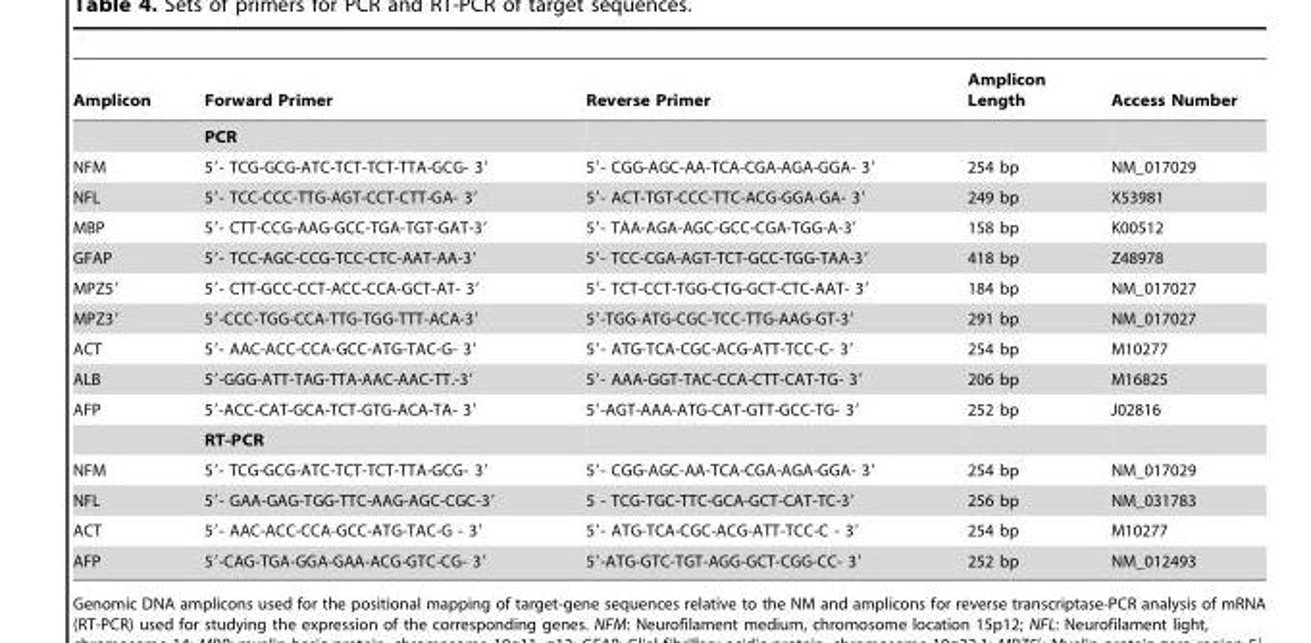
<table><thead><tr><td>Amplicon</td><td>Forward Primer</td><td>Reverse Primer</td><td>Amplicon Length</td><td>Access Number</td></tr></thead><tbody><tr><td></td><td>PCR</td><td></td><td></td><td></td></tr><tr><td>NFM</td><td>5′- TCG-GCG-ATC-TCT-TCT-TTA-GCG- 3′</td><td>5′- CGG-AGC-AA-TCA-CGA-AGA-GGA- 3′</td><td>254 bp</td><td>NM_017029</td></tr><tr><td>NFL</td><td>5′- TCC-CCC-TTG-AGT-CCT-CTT-GA- 3′</td><td>5′- ACT-TGT-CCC-TTC-ACG-GGA-GA- 3′</td><td>249 bp</td><td>X53981</td></tr><tr><td>MBP</td><td>5′- CTT-CCG-AAG-GCC-TGA-TGT-GAT-3′</td><td>5′- TAA-AGA-AGC-GCC-CGA-TGG-A-3′</td><td>158 bp</td><td>K00512</td></tr><tr><td>GFAP</td><td>5′- TCC-AGC-CCG-TCC-CTC-AAT-AA-3′</td><td>5′- TCC-CGA-AGT-TCT-GCC-TGG-TAA-3′</td><td>418 bp</td><td>Z48978</td></tr><tr><td>MPZ5′</td><td>5′- CTT-GCC-CCT-ACC-CCA-GCT-AT- 3′</td><td>5′- TCT-CCT-TGG-CTG-GCT-CTC-AAT- 3′</td><td>184 bp</td><td>NM_017027</td></tr><tr><td>MPZ3′</td><td>5′-CCC-TGG-CCA-TTG-TGG-TTT-ACA-3′</td><td>5′-TGG-ATG-CGC-TCC-TTG-AAG-GT-3′</td><td>291 bp</td><td>NM_017027</td></tr><tr><td>ACT</td><td>5′- AAC-ACC-CCA-GCC-ATG-TAC-G- 3′</td><td>5′- ATG-TCA-CGC-ACG-ATT-TCC-C- 3′</td><td>254 bp</td><td>M10277</td></tr><tr><td>ALB</td><td>5′-GGG-ATT-TAG-TTA-AAC-AAC-TT.-3′</td><td>5′- AAA-GGT-TAC-CCA-CTT-CAT-TG- 3′</td><td>206 bp</td><td>M16825</td></tr><tr><td rowspan="2">AFP</td><td>5′-ACC-CAT-GCA-TCT-GTG-ACA-TA- 3′</td><td>5′-AGT-AAA-ATG-CAT-GTT-GCC-TG- 3′</td><td>252 bp</td><td>J02816</td></tr><tr><td>RT-PCR</td><td></td><td></td><td></td></tr><tr><td>NFM</td><td>5′- TCG-GCG-ATC-TCT-TCT-TTA-GCG- 3′</td><td>5′- CGG-AGC-AA-TCA-CGA-AGA-GGA- 3′</td><td>254 bp</td><td>NM_017029</td></tr><tr><td>NFL</td><td>5′- GAA-GAG-TGG-TTC-AAG-AGC-CGC-3′</td><td>5 - TCG-TGC-TTC-GCA-GCT-CAT-TC-3′</td><td>256 bp</td><td>NM_031783</td></tr><tr><td>ACT</td><td>5′- AAC-ACC-CCA-GCC-ATG-TAC-G - 3′</td><td>5′- ATG-TCA-CGC-ACG-ATT-TCC-C - 3′</td><td>254 bp</td><td>M10277</td></tr><tr><td>AFP</td><td>5′-CAG-TGA-GGA-GAA-ACG-GTC-CG- 3′</td><td>5′-ATG-GTC-TGT-AGG-GCT-CGG-CC- 3′</td><td>252 bp</td><td>NM_012493</td></tr></tbody></table>